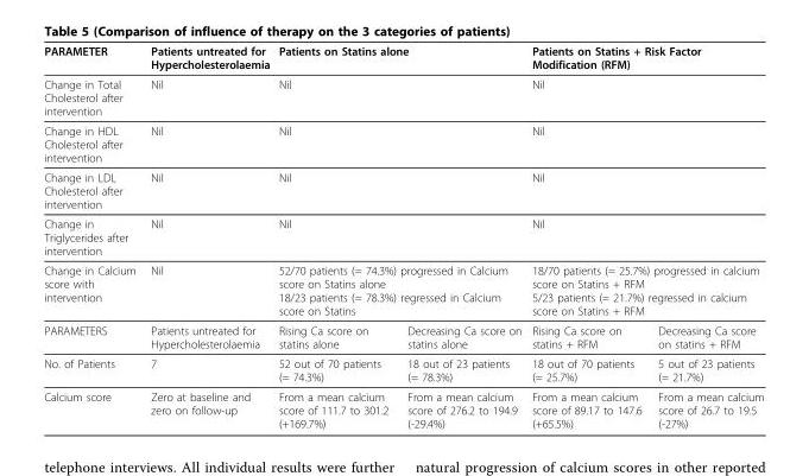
<table><thead><tr><td>PARAMETER</td><td>Patients untreated for Hypercholesterolaemia</td><td colspan="2">Patients on Statins alone</td><td colspan="2">Patients on Statins + Risk Factor Modification (RFM)</td></tr></thead><tbody><tr><td>Change in Total Cholesterol after intervention</td><td>Nil</td><td colspan="2">Nil</td><td colspan="2">Nil</td></tr><tr><td>Change in HDL Cholesterol after intervention</td><td>Nil</td><td colspan="2">Nil</td><td colspan="2">Nil</td></tr><tr><td>Change in LDL Cholesterol after intervention</td><td>Nil</td><td colspan="2">Nil</td><td colspan="2">Nil</td></tr><tr><td>Change in Triglycerides after intervention</td><td>Nil</td><td colspan="2">Nil</td><td colspan="2">Nil</td></tr><tr><td>Change in Calcium score with intervention</td><td>Nil</td><td colspan="2">52/70 patients (= 74.3%) progressed in Calcium score on Statins alone 18/23 patients (= 78.3%) regressed in Calcium score on Statins</td><td colspan="2">18/70 patients (= 25.7%) progressed in calcium score on Statins + RFM 5/23 patients (= 21.7%) regressed in calcium score on Statins + RFM</td></tr><tr><td>PARAMETERS</td><td>Patients untreated for Hypercholesterolaemia</td><td>Rising Ca score on statins alone</td><td>Decreasing Ca score on statins alone</td><td>Rising Ca score on statins + RFM</td><td>Decreasing Ca score on statins + RFM</td></tr><tr><td>No. of Patients</td><td>7</td><td>52 out of 70 patients (= 74.3%)</td><td>18 out of 23 patients (= 78.3%)</td><td>18 out of 70 patients (= 25.7%)</td><td>5 out of 23 patients (= 21.7%)</td></tr><tr><td>Calcium score</td><td>Zero at baseline and zero on follow-up</td><td>From a mean calcium score of 111.7 to 301.2 (+169.7%)</td><td>From a mean calcium score of 276.2 to 194.9 (-29.4%)</td><td>From a mean calcium score of 89.17 to 147.6 (+65.5%)</td><td>From a mean calcium score of 26.7 to 19.5 (-27%)</td></tr></tbody></table>